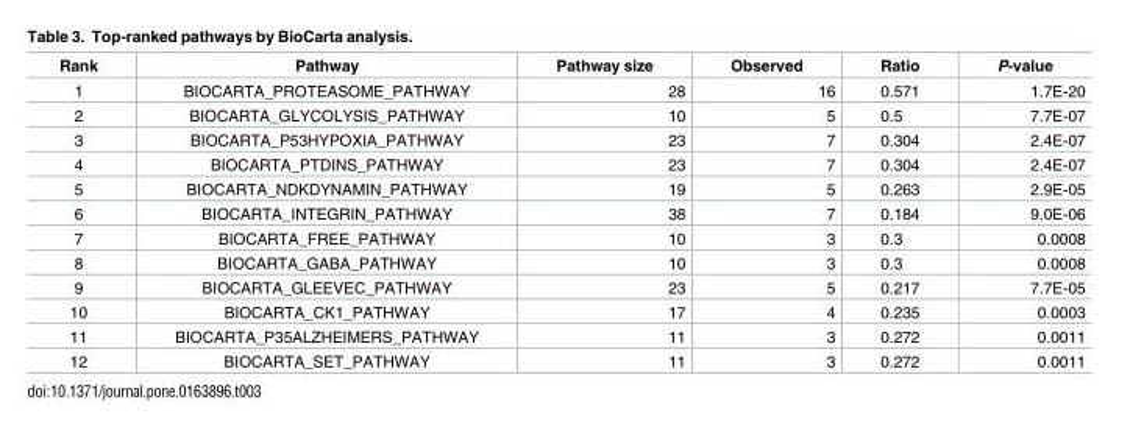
<table><thead><tr><td>Rank</td><td>Pathway</td><td>Pathway size</td><td>Observed</td><td>Ratio</td><td>P-value</td></tr></thead><tbody><tr><td>1</td><td>BIOCARTA_PROTEASOME_PATHWAY</td><td>28</td><td>16</td><td>0.571</td><td>1.7E-20</td></tr><tr><td>2</td><td>BIOCARTA_GLYCOLYSIS_PATHWAY</td><td>10</td><td>5</td><td>0.5</td><td>7.7E-07</td></tr><tr><td>3</td><td>BIOCARTA_P53HYPOXIA_PATHWAY</td><td>23</td><td>7</td><td>0.304</td><td>2.4E-07</td></tr><tr><td>4</td><td>BIOCARTA_PTDINS_PATHWAY</td><td>23</td><td>7</td><td>0.304</td><td>2.4E-07</td></tr><tr><td>5</td><td>BIOCARTA_NDKDYNAMIN_PATHWAY</td><td>19</td><td>5</td><td>0.263</td><td>2.9E-05</td></tr><tr><td>6</td><td>BIOCARTA_INTEGRIN_PATHWAY</td><td>38</td><td>7</td><td>0.184</td><td>9.0E-06</td></tr><tr><td>7</td><td>BIOCARTA_FREE_PATHWAY</td><td>10</td><td>3</td><td>0.3</td><td>0.0008</td></tr><tr><td>8</td><td>BIOCARTA_GABA_PATHWAY</td><td>10</td><td>3</td><td>0.3</td><td>0.0008</td></tr><tr><td>9</td><td>BIOCARTA_GLEEVEC_PATHWAY</td><td>23</td><td>5</td><td>0.217</td><td>7.7E-05</td></tr><tr><td>10</td><td>BIOCARTA_CK1_PATHWAY</td><td>17</td><td>4</td><td>0.235</td><td>0.0003</td></tr><tr><td>11</td><td>BIOCARTA_P35ALZHEIMERS_PATHWAY</td><td>11</td><td>3</td><td>0.272</td><td>0.0011</td></tr><tr><td>12</td><td>BIOCARTA_SET_PATHWAY</td><td>11</td><td>3</td><td>0.272</td><td>0.0011</td></tr></tbody></table>